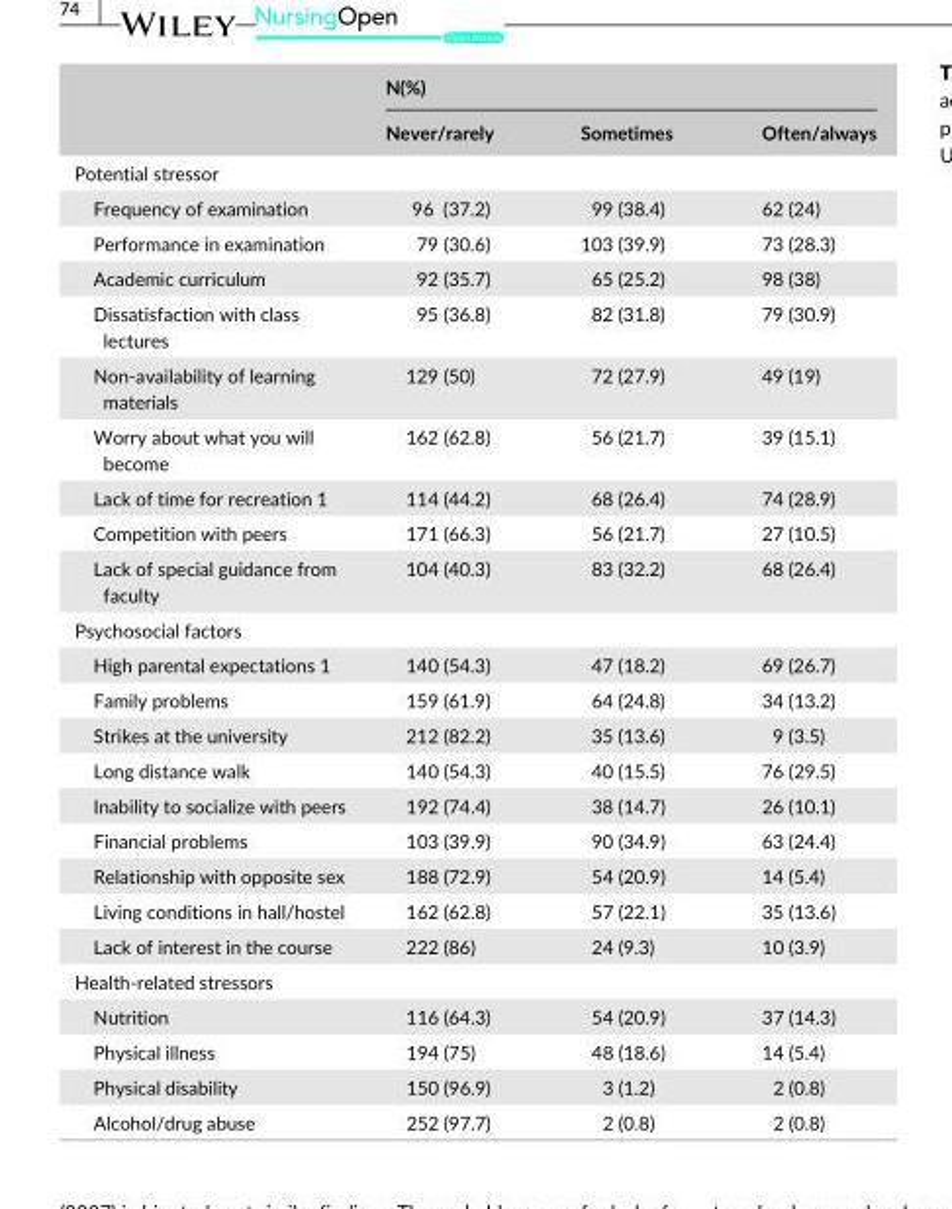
<table><thead><tr><td rowspan="2"></td><td colspan="3">N(%)</td></tr><tr><td>Never/rarely</td><td>Sometimes</td><td>Often/always</td></tr></thead><tbody><tr><td colspan="4">Potential stressor</td></tr><tr><td>Frequency of examination</td><td>96 (37.2)</td><td>99 (38.4)</td><td>62 (24)</td></tr><tr><td>Performance in examination</td><td>79 (30.6)</td><td>103 (39.9)</td><td>73 (28.3)</td></tr><tr><td>Academic curriculum</td><td>92 (35.7)</td><td>65 (25.2)</td><td>98 (38)</td></tr><tr><td>Dissatisfaction with class lectures</td><td>95 (36.8)</td><td>82 (31.8)</td><td>79 (30.9)</td></tr><tr><td>Non- availability of learning materials</td><td>129 (50)</td><td>72 (27.9)</td><td>49 (19)</td></tr><tr><td>Worry about what you will become</td><td>162 (62.8)</td><td>56 (21.7)</td><td>39 (15.1)</td></tr><tr><td>Lack of time for recreation 1</td><td>114 (44.2)</td><td>68 (26.4)</td><td>74 (28.9)</td></tr><tr><td>Competition with peers</td><td>171 (66.3)</td><td>56 (21.7)</td><td>27 (10.5)</td></tr><tr><td>Lack of special guidance from faculty</td><td>104 (40.3)</td><td>83 (32.2)</td><td>68 (26.4)</td></tr><tr><td colspan="4">Psychosocial factors</td></tr><tr><td>High parental expectations 1</td><td>140 (54.3)</td><td>47 (18.2)</td><td>69 (26.7)</td></tr><tr><td>Family problems</td><td>159 (61.9)</td><td>64 (24.8)</td><td>34 (13.2)</td></tr><tr><td>Strikes at the university</td><td>212 (82.2)</td><td>35 (13.6)</td><td>9 (3.5)</td></tr><tr><td>Long distance walk</td><td>140 (54.3)</td><td>40 (15.5)</td><td>76 (29.5)</td></tr><tr><td>Inability to socialize with peers</td><td>192 (74.4)</td><td>38 (14.7)</td><td>26 (10.1)</td></tr><tr><td>Financial problems</td><td>103 (39.9)</td><td>90 (34.9)</td><td>63 (24.4)</td></tr><tr><td>Relationship with opposite sex</td><td>188 (72.9)</td><td>54 (20.9)</td><td>14 (5.4)</td></tr><tr><td>Living conditions in hall/hostel</td><td>162 (62.8)</td><td>57 (22.1)</td><td>35 (13.6)</td></tr><tr><td>Lack of interest in the course</td><td>222 (86)</td><td>24 (9.3)</td><td>10 (3.9)</td></tr><tr><td colspan="4">Health- related stressors</td></tr><tr><td>Nutrition</td><td>116 (64.3)</td><td>54 (20.9)</td><td>37 (14.3)</td></tr><tr><td>Physical illness</td><td>194 (75)</td><td>48 (18.6)</td><td>14 (5.4)</td></tr><tr><td>Physical disability</td><td>150 (96.9)</td><td>3 (1.2)</td><td>2 (0.8)</td></tr><tr><td>Alcohol/drug abuse</td><td>252 (97.7)</td><td>2 (0.8)</td><td>2 (0.8)</td></tr></tbody></table>